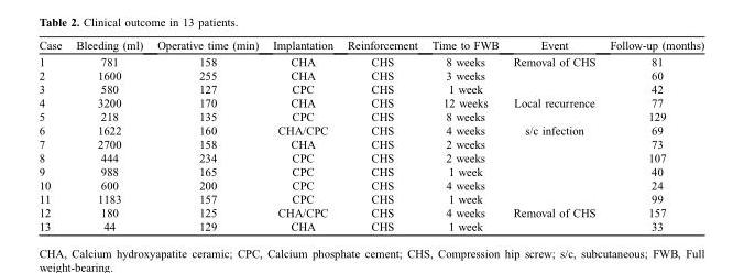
<table><thead><tr><td>Case</td><td>Bleeding (ml)</td><td>Operative time (min)</td><td>Implantation</td><td>Reinforcement</td><td>Time to FWB</td><td>Event</td><td>Follow-up (months)</td></tr></thead><tbody><tr><td>1</td><td>781</td><td>158</td><td>CHA</td><td>CHS</td><td>8 weeks</td><td>Removal of CHS</td><td>81</td></tr><tr><td>2</td><td>1600</td><td>255</td><td>CHA</td><td>CHS</td><td>3 weeks</td><td></td><td>60</td></tr><tr><td>3</td><td>580</td><td>127</td><td>CPC</td><td>CHS</td><td>1 week</td><td></td><td>42</td></tr><tr><td>4</td><td>3200</td><td>170</td><td>CHA</td><td>CHS</td><td>12 weeks</td><td>Local recurrence</td><td>77</td></tr><tr><td>5</td><td>218</td><td>135</td><td>CPC</td><td>CHS</td><td>8 weeks</td><td></td><td>129</td></tr><tr><td>6</td><td>1622</td><td>160</td><td>CHA/CPC</td><td>CHS</td><td>4 weeks</td><td>s/c infection</td><td>69</td></tr><tr><td>7</td><td>2700</td><td>158</td><td>CHA</td><td>CHS</td><td>2 weeks</td><td></td><td>73</td></tr><tr><td>8</td><td>444</td><td>234</td><td>CPC</td><td>CHS</td><td>2 weeks</td><td></td><td>107</td></tr><tr><td>9</td><td>988</td><td>165</td><td>CPC</td><td>CHS</td><td>1 week</td><td></td><td>40</td></tr><tr><td>10</td><td>600</td><td>200</td><td>CPC</td><td>CHS</td><td>4 weeks</td><td></td><td>24</td></tr><tr><td>11</td><td>1183</td><td>157</td><td>CPC</td><td>CHS</td><td>1 week</td><td></td><td>99</td></tr><tr><td>12</td><td>180</td><td>125</td><td>CHA/CPC</td><td>CHS</td><td>4 weeks</td><td>Removal of CHS</td><td>157</td></tr><tr><td>13</td><td>44</td><td>129</td><td>CHA</td><td>CHS</td><td>1 week</td><td></td><td>33</td></tr></tbody></table>